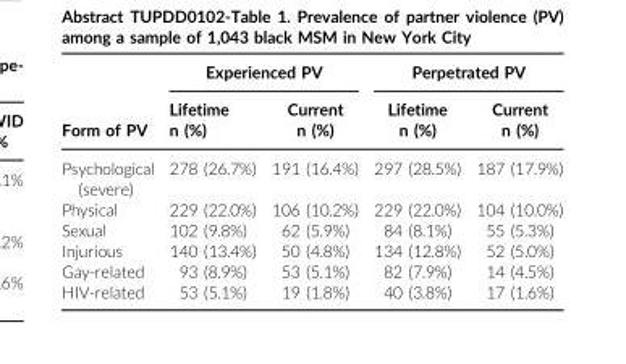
<table><thead><tr><td rowspan="2">Form of PV</td><td colspan="2">Experienced PV</td><td colspan="2">Perpetrated PV</td></tr><tr><td>Lifetime n (%)</td><td>Current n (%)</td><td>Lifetime n (%)</td><td>Current n (%)</td></tr></thead><tbody><tr><td>Psychological (severe)</td><td>278 (26.7%)</td><td>191 (16.4%)</td><td>297 (28.5%)</td><td>187 (17.9%)</td></tr><tr><td>Physical</td><td>229 (22.0%)</td><td>106 (10.2%)</td><td>229 (22.0%)</td><td>104 (10.0%)</td></tr><tr><td>Sexual</td><td>102 (9.8%)</td><td>62 (5.9%)</td><td>84 (8.1%)</td><td>55 (5.3%)</td></tr><tr><td>Injurious</td><td>140 (13.4%)</td><td>50 (4.8%)</td><td>134 (12.8%)</td><td>52 (5.0%)</td></tr><tr><td>Gay-related</td><td>93 (8.9%)</td><td>53 (5.1%)</td><td>82 (7.9%)</td><td>14 (4.5%)</td></tr><tr><td>HIV-related</td><td>53 (5.1%)</td><td>19 (1.8%)</td><td>40 (3.8%)</td><td>17 (1.6%)</td></tr></tbody></table>